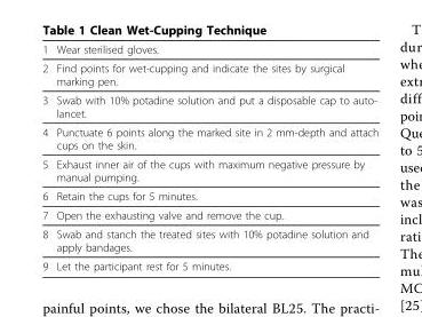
<table><thead><tr><td>1</td><td>Wear sterilised gloves.</td></tr></thead><tbody><tr><td>2</td><td>Find points for wet-cupping and indicate the sites by surgical marking pen.</td></tr><tr><td>3</td><td>Swab with 10% potadine solution and put a disposable cap to auto- lancet.</td></tr><tr><td>4</td><td>Punctuate 6 points along the marked site in 2 mm-depth and attach cups on the skin.</td></tr><tr><td>5</td><td>Exhaust inner air of the cups with maximum negative pressure by manual pumping.</td></tr><tr><td>6</td><td>Retain the cups for 5 minutes.</td></tr><tr><td>7</td><td>Open the exhausting valve and remove the cup.</td></tr><tr><td>8</td><td>Swab and stanch the treated sites with 10% potadine solution and apply bandages.</td></tr><tr><td>9</td><td>Let the participant rest for 5 minutes.</td></tr></tbody></table>